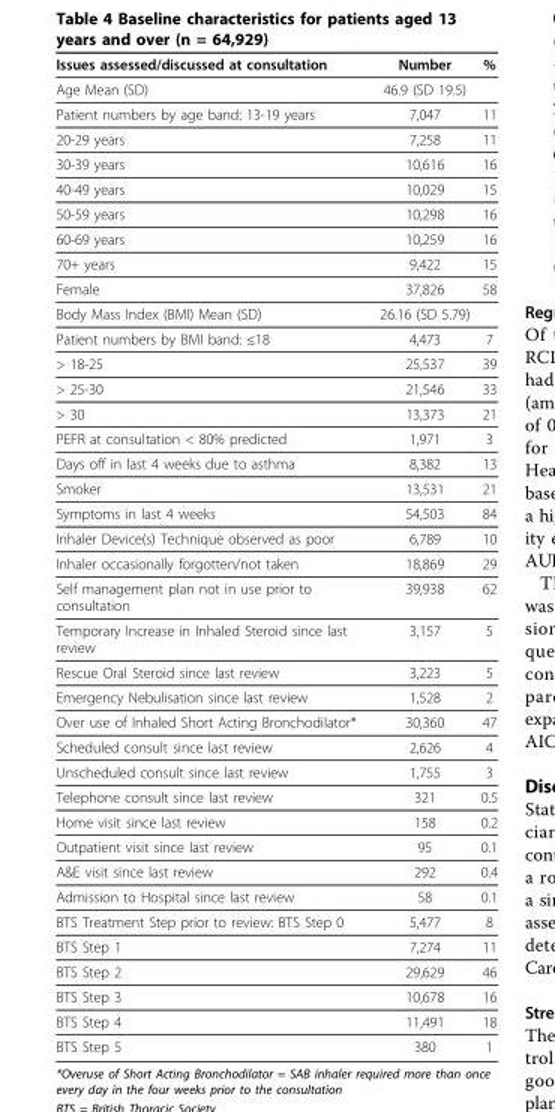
<table><thead><tr><td>Issues assessed/discussed at consultation</td><td>Number</td><td>%</td></tr></thead><tbody><tr><td>Age Mean (SD)</td><td>46.9 (SD 19.5)</td><td></td></tr><tr><td>Patient numbers by age band: 13-19 years</td><td>7,047</td><td>11</td></tr><tr><td>20-29 years</td><td>7,258</td><td>11</td></tr><tr><td>30-39 years</td><td>10,616</td><td>16</td></tr><tr><td>40-49 years</td><td>10,029</td><td>15</td></tr><tr><td>50-59 years</td><td>10,298</td><td>16</td></tr><tr><td>60-69 years</td><td>10,259</td><td>16</td></tr><tr><td>70+ years</td><td>9,422</td><td>15</td></tr><tr><td>Female</td><td>37,826</td><td>58</td></tr><tr><td>Body Mass Index (BMI) Mean (SD)</td><td>26.16 (SD 5.79)</td><td></td></tr><tr><td>Patient numbers by BMI band: ≤18</td><td>4,473</td><td>7</td></tr><tr><td>&gt; 18-25</td><td>25,537</td><td>39</td></tr><tr><td>&gt; 25-30</td><td>21,546</td><td>33</td></tr><tr><td>&gt; 30</td><td>13,373</td><td>21</td></tr><tr><td>PEFR at consultation &lt; 80% predicted</td><td>1,971</td><td>3</td></tr><tr><td>Days off in last 4 weeks due to asthma</td><td>8,382</td><td>13</td></tr><tr><td>Smoker</td><td>13,531</td><td>21</td></tr><tr><td>Symptoms in last 4 weeks</td><td>54,503</td><td>84</td></tr><tr><td>Inhaler Device(s) Technique observed as poor</td><td>6,789</td><td>10</td></tr><tr><td>Inhaler occasionally forgotten/not taken</td><td>18,869</td><td>29</td></tr><tr><td>Self management plan not in use prior to consultation</td><td>39,938</td><td>62</td></tr><tr><td>Temporary Increase in Inhaled Steroid since last review</td><td>3,157</td><td>5</td></tr><tr><td>Rescue Oral Steroid since last review</td><td>3,223</td><td>5</td></tr><tr><td>Emergency Nebulisation since last review</td><td>1,528</td><td>2</td></tr><tr><td>Over use of Inhaled Short Acting Bronchodilator*</td><td>30,360</td><td>47</td></tr><tr><td>Scheduled consult since last review</td><td>2,626</td><td>4</td></tr><tr><td>Unscheduled consult since last review</td><td>1,755</td><td>3</td></tr><tr><td>Telephone consult since last review</td><td>321</td><td>0.5</td></tr><tr><td>Home visit since last review</td><td>158</td><td>0.2</td></tr><tr><td>Outpatient visit since last review</td><td>95</td><td>0.1</td></tr><tr><td>A&amp;E visit since last review</td><td>292</td><td>0.4</td></tr><tr><td>Admission to Hospital since last review</td><td>58</td><td>0.1</td></tr><tr><td>BTS Treatment Step prior to review: BTS Step 0</td><td>5,477</td><td>8</td></tr><tr><td>BTS Step 1</td><td>7,274</td><td>11</td></tr><tr><td>BTS Step 2</td><td>29,629</td><td>46</td></tr><tr><td>BTS Step 3</td><td>10,678</td><td>16</td></tr><tr><td>BTS Step 4</td><td>11,491</td><td>18</td></tr><tr><td>BTS Step 5</td><td>380</td><td>1</td></tr></tbody></table>